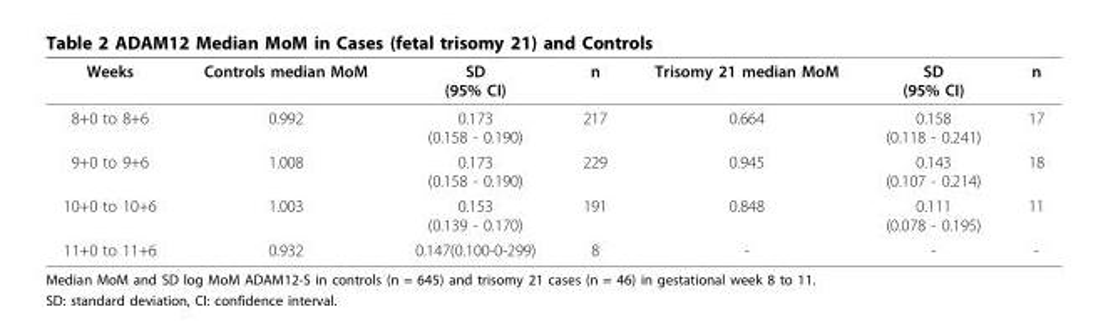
<table><thead><tr><td>Weeks</td><td>Controls median MoM</td><td>SD (95% CI)</td><td>n</td><td>Trisomy 21 median MoM</td><td>SD (95% CI)</td><td>n</td></tr></thead><tbody><tr><td>8+0 to 8+6</td><td>0.992</td><td>0.173 (0.158 - 0.190)</td><td>217</td><td>0.664</td><td>0.158 (0.118 - 0.241)</td><td>17</td></tr><tr><td>9+0 to 9+6</td><td>1.008</td><td>0.173 (0.158 - 0.190)</td><td>229</td><td>0.945</td><td>0.143 (0.107 - 0.214)</td><td>18</td></tr><tr><td>10+0 to 10+6</td><td>1.003</td><td>0.153 (0.139 - 0.170)</td><td>191</td><td>0.848</td><td>0.111 (0.078 - 0.195)</td><td>11</td></tr><tr><td>11+0 to 11+6</td><td>0.932</td><td>0.147(0.100-0-299)</td><td>8</td><td>-</td><td>-</td><td>-</td></tr></tbody></table>